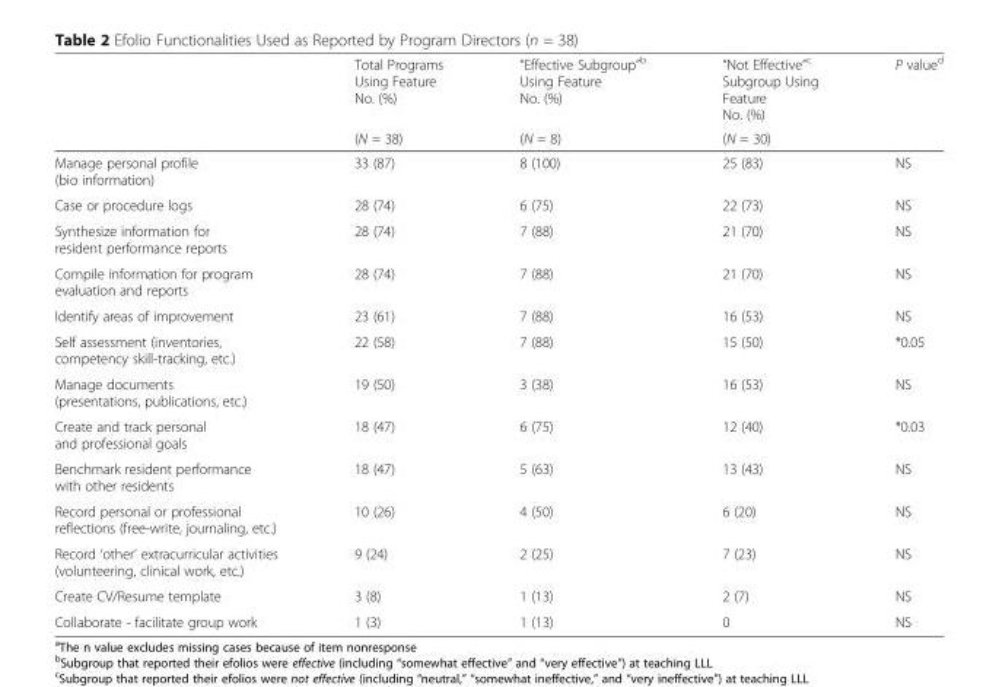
<table><thead><tr><td rowspan="2"></td><td rowspan="2">Total Programs Using Feature No. (%) (N = 38)</td><td rowspan="2">“Effective Subgroup”<sup>b</sup> Using Feature No. (%) (N = 8)</td><td rowspan="2">“Not Effective”<sup>c</sup> Subgroup Using Feature No. (%) (N = 30)</td><td rowspan="2">P value<sup>d</sup></td></tr><tr></tr></thead><tbody><tr><td>Manage personal profile (bio information)</td><td>33 (87)</td><td>8 (100)</td><td>25 (83)</td><td>NS</td></tr><tr><td>Case or procedure logs</td><td>28 (74)</td><td>6 (75)</td><td>22 (73)</td><td>NS</td></tr><tr><td>Synthesize information for resident performance reports</td><td>28 (74)</td><td>7 (88)</td><td>21 (70)</td><td>NS</td></tr><tr><td>Compile information for program evaluation and reports</td><td>28 (74)</td><td>7 (88)</td><td>21 (70)</td><td>NS</td></tr><tr><td>Identify areas of improvement</td><td>23 (61)</td><td>7 (88)</td><td>16 (53)</td><td>NS</td></tr><tr><td>Self assessment (inventories, competency skill-tracking, etc.)</td><td>22 (58)</td><td>7 (88)</td><td>15 (50)</td><td>*0.05</td></tr><tr><td>Manage documents (presentations, publications, etc.)</td><td>19 (50)</td><td>3 (38)</td><td>16 (53)</td><td>NS</td></tr><tr><td>Create and track personal and professional goals</td><td>18 (47)</td><td>6 (75)</td><td>12 (40)</td><td>*0.03</td></tr><tr><td>Benchmark resident performance with other residents</td><td>18 (47)</td><td>5 (63)</td><td>13 (43)</td><td>NS</td></tr><tr><td>Record personal or professional reflections (free-write, journaling, etc.)</td><td>10 (26)</td><td>4 (50)</td><td>6 (20)</td><td>NS</td></tr><tr><td>Record ‘other’ extracurricular activities (volunteering, clinical work, etc.)</td><td>9 (24)</td><td>2 (25)</td><td>7 (23)</td><td>NS</td></tr><tr><td>Create CV/Resume template</td><td>3 (8)</td><td>1 (13)</td><td>2 (7)</td><td>NS</td></tr><tr><td>Collaborate - facilitate group work</td><td>1 (3)</td><td>1 (13)</td><td>0</td><td>NS</td></tr></tbody></table>